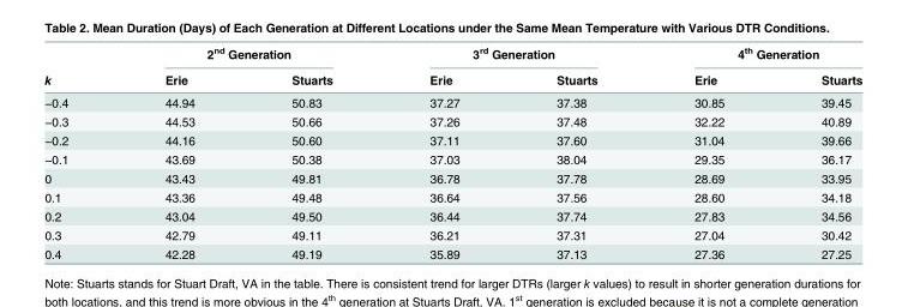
<table><thead><tr><td rowspan="2">k</td><td colspan="2">2<sup>nd</sup> Generation</td><td colspan="2">3<sup>rd</sup> Generation</td><td colspan="2">4<sup>th</sup> Generation</td></tr><tr><td>Erie</td><td>Stuarts</td><td>Erie</td><td>Stuarts</td><td>Erie</td><td>Stuarts</td></tr></thead><tbody><tr><td>−0.4</td><td>44.94</td><td>50.83</td><td>37.27</td><td>37.38</td><td>30.85</td><td>39.45</td></tr><tr><td>−0.3</td><td>44.53</td><td>50.66</td><td>37.26</td><td>37.48</td><td>32.22</td><td>40.89</td></tr><tr><td>−0.2</td><td>44.16</td><td>50.60</td><td>37.11</td><td>37.60</td><td>31.04</td><td>39.66</td></tr><tr><td>−0.1</td><td>43.69</td><td>50.38</td><td>37.03</td><td>38.04</td><td>29.35</td><td>36.17</td></tr><tr><td>0</td><td>43.43</td><td>49.81</td><td>36.78</td><td>37.78</td><td>28.69</td><td>33.95</td></tr><tr><td>0.1</td><td>43.36</td><td>49.48</td><td>36.64</td><td>37.56</td><td>28.60</td><td>34.18</td></tr><tr><td>0.2</td><td>43.04</td><td>49.50</td><td>36.44</td><td>37.74</td><td>27.83</td><td>34.56</td></tr><tr><td>0.3</td><td>42.79</td><td>49.11</td><td>36.21</td><td>37.31</td><td>27.04</td><td>30.42</td></tr><tr><td>0.4</td><td>42.28</td><td>49.19</td><td>35.89</td><td>37.13</td><td>27.36</td><td>27.25</td></tr></tbody></table>